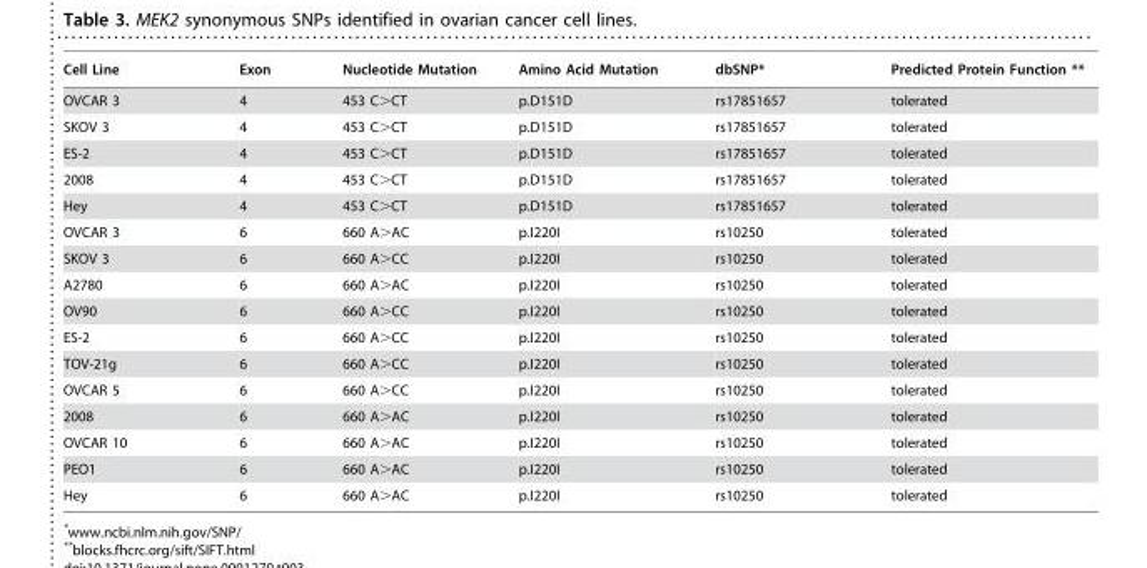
<table><thead><tr><td>Cell Line</td><td>Exon</td><td>Nucleotide Mutation</td><td>Amino Acid Mutation</td><td>dbSNP*</td><td>Predicted Protein Function **</td></tr></thead><tbody><tr><td>OVCAR 3</td><td>4</td><td>453 C&gt;CT</td><td>p.D151D</td><td>rs17851657</td><td>tolerated</td></tr><tr><td>SKOV 3</td><td>4</td><td>453 C&gt;CT</td><td>p.D151D</td><td>rs17851657</td><td>tolerated</td></tr><tr><td>ES-2</td><td>4</td><td>453 C&gt;CT</td><td>p.D151D</td><td>rs17851657</td><td>tolerated</td></tr><tr><td>2008</td><td>4</td><td>453 C&gt;CT</td><td>p.D151D</td><td>rs17851657</td><td>tolerated</td></tr><tr><td>Hey</td><td>4</td><td>453 C&gt;CT</td><td>p.D151D</td><td>rs17851657</td><td>tolerated</td></tr><tr><td>OVCAR 3</td><td>6</td><td>660 A&gt;AC</td><td>p.I220I</td><td>rs10250</td><td>tolerated</td></tr><tr><td>SKOV 3</td><td>6</td><td>660 A&gt;CC</td><td>p.I220I</td><td>rs10250</td><td>tolerated</td></tr><tr><td>A2780</td><td>6</td><td>660 A&gt;AC</td><td>p.I220I</td><td>rs10250</td><td>tolerated</td></tr><tr><td>OV90</td><td>6</td><td>660 A&gt;CC</td><td>p.I220I</td><td>rs10250</td><td>tolerated</td></tr><tr><td>ES-2</td><td>6</td><td>660 A&gt;CC</td><td>p.I220I</td><td>rs10250</td><td>tolerated</td></tr><tr><td>TOV-21g</td><td>6</td><td>660 A&gt;CC</td><td>p.I220I</td><td>rs10250</td><td>tolerated</td></tr><tr><td>OVCAR 5</td><td>6</td><td>660 A&gt;CC</td><td>p.I220I</td><td>rs10250</td><td>tolerated</td></tr><tr><td>2008</td><td>6</td><td>660 A&gt;AC</td><td>p.I220I</td><td>rs10250</td><td>tolerated</td></tr><tr><td>OVCAR 10</td><td>6</td><td>660 A&gt;AC</td><td>p.I220I</td><td>rs10250</td><td>tolerated</td></tr><tr><td>PEO1</td><td>6</td><td>660 A&gt;AC</td><td>p.I220I</td><td>rs10250</td><td>tolerated</td></tr><tr><td>Hey</td><td>6</td><td>660 A&gt;AC</td><td>p.I220I</td><td>rs10250</td><td>tolerated</td></tr></tbody></table>